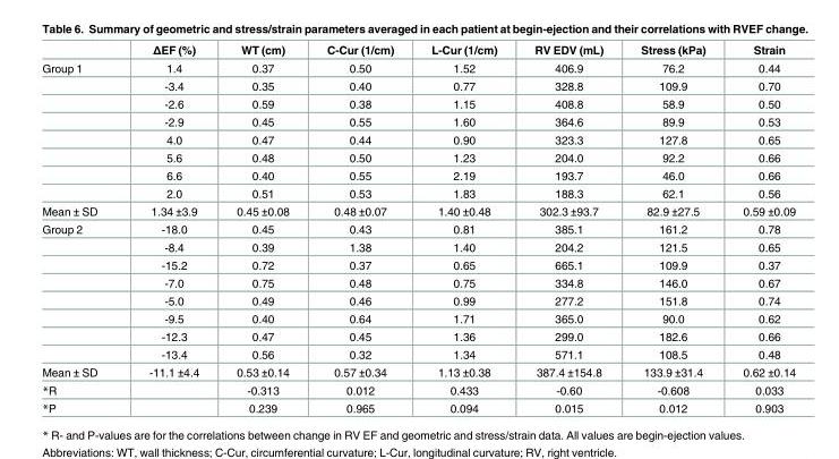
<table><thead><tr><td></td><td>ΔEF (%)</td><td>WT (cm)</td><td>C-Cur (1/cm)</td><td>L-Cur (1/cm)</td><td>RV EDV (mL)</td><td>Stress (kPa)</td><td>Strain</td></tr></thead><tbody><tr><td rowspan="8">Group 1</td><td>1.4</td><td>0.37</td><td>0.50</td><td>1.52</td><td>406.9</td><td>76.2</td><td>0.44</td></tr><tr><td>-3.4</td><td>0.35</td><td>0.40</td><td>0.77</td><td>328.8</td><td>109.9</td><td>0.70</td></tr><tr><td>-2.6</td><td>0.59</td><td>0.38</td><td>1.15</td><td>408.8</td><td>58.9</td><td>0.50</td></tr><tr><td>-2.9</td><td>0.45</td><td>0.55</td><td>1.60</td><td>364.6</td><td>89.9</td><td>0.53</td></tr><tr><td>4.0</td><td>0.47</td><td>0.44</td><td>0.90</td><td>323.3</td><td>127.8</td><td>0.65</td></tr><tr><td>5.6</td><td>0.48</td><td>0.50</td><td>1.23</td><td>204.0</td><td>92.2</td><td>0.66</td></tr><tr><td>6.6</td><td>0.40</td><td>0.55</td><td>2.19</td><td>193.7</td><td>46.0</td><td>0.66</td></tr><tr><td>2.0</td><td>0.51</td><td>0.53</td><td>1.83</td><td>188.3</td><td>62.1</td><td>0.56</td></tr><tr><td>Mean ± SD</td><td>1.34 ±3.9</td><td>0.45 ±0.08</td><td>0.48 ±0.07</td><td>1.40 ±0.48</td><td>302.3 ±93.7</td><td>82.9 ±27.5</td><td>0.59 ±0.09</td></tr><tr><td rowspan="8">Group 2</td><td>-18.0</td><td>0.45</td><td>0.43</td><td>0.81</td><td>385.1</td><td>161.2</td><td>0.78</td></tr><tr><td>-8.4</td><td>0.39</td><td>1.38</td><td>1.40</td><td>204.2</td><td>121.5</td><td>0.65</td></tr><tr><td>-15.2</td><td>0.72</td><td>0.37</td><td>0.65</td><td>665.1</td><td>109.9</td><td>0.37</td></tr><tr><td>-7.0</td><td>0.75</td><td>0.48</td><td>0.75</td><td>334.8</td><td>146.0</td><td>0.67</td></tr><tr><td>-5.0</td><td>0.49</td><td>0.46</td><td>0.99</td><td>277.2</td><td>151.8</td><td>0.74</td></tr><tr><td>-9.5</td><td>0.40</td><td>0.64</td><td>1.71</td><td>365.0</td><td>90.0</td><td>0.62</td></tr><tr><td>-12.3</td><td>0.47</td><td>0.45</td><td>1.36</td><td>299.0</td><td>182.6</td><td>0.66</td></tr><tr><td>-13.4</td><td>0.56</td><td>0.32</td><td>1.34</td><td>571.1</td><td>108.5</td><td>0.48</td></tr><tr><td>Mean ± SD</td><td>-11.1 ±4.4</td><td>0.53 ±0.14</td><td>0.57 ±0.34</td><td>1.13 ±0.38</td><td>387.4 ±154.8</td><td>133.9 ±31.4</td><td>0.62 ±0.14</td></tr><tr><td>*R</td><td></td><td>-0.313</td><td>0.012</td><td>0.433</td><td>-0.60</td><td>-0.608</td><td>0.033</td></tr><tr><td>*P</td><td></td><td>0.239</td><td>0.965</td><td>0.094</td><td>0.015</td><td>0.012</td><td>0.903</td></tr></tbody></table>